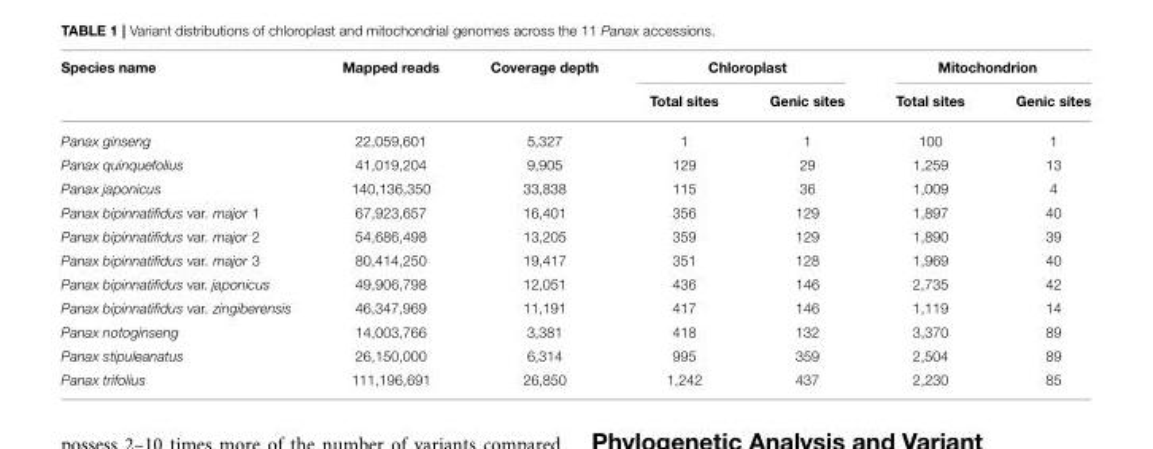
<table><thead><tr><td rowspan="2">Species name</td><td rowspan="2">Mapped reads</td><td rowspan="2">Coverage depth</td><td colspan="2">Chloroplast</td><td colspan="2">Mitochondrion</td></tr><tr><td>Total sites</td><td>Genic sites</td><td>Total sites</td><td>Genic sites</td></tr></thead><tbody><tr><td>Panax ginseng</td><td>22,059,601</td><td>5,327</td><td>1</td><td>1</td><td>100</td><td>1</td></tr><tr><td>Panax quinquefolius</td><td>41,019,204</td><td>9,905</td><td>129</td><td>29</td><td>1,259</td><td>13</td></tr><tr><td>Panax japonicus</td><td>140,136,350</td><td>33,838</td><td>115</td><td>36</td><td>1,009</td><td>4</td></tr><tr><td>Panax bipinnatifidus var. major 1</td><td>67,923,657</td><td>16,401</td><td>356</td><td>129</td><td>1,897</td><td>40</td></tr><tr><td>Panax bipinnatifidus var. major 2</td><td>54,686,498</td><td>13,205</td><td>359</td><td>129</td><td>1,890</td><td>39</td></tr><tr><td>Panax bipinnatifidus var. major 3</td><td>80,414,250</td><td>19,417</td><td>351</td><td>128</td><td>1,969</td><td>40</td></tr><tr><td>Panax bipinnatifidus var. japonicus</td><td>49,906,798</td><td>12,051</td><td>436</td><td>146</td><td>2,735</td><td>42</td></tr><tr><td>Panax bipinnatifidus var. zingiberensis</td><td>46,347,969</td><td>11,191</td><td>417</td><td>146</td><td>1,119</td><td>14</td></tr><tr><td>Panax notoginseng</td><td>14,003,766</td><td>3,381</td><td>418</td><td>132</td><td>3,370</td><td>89</td></tr><tr><td>Panax stipuleanatus</td><td>26,150,000</td><td>6,314</td><td>995</td><td>359</td><td>2,504</td><td>89</td></tr><tr><td>Panax trifolius</td><td>111,196,691</td><td>26,850</td><td>1,242</td><td>437</td><td>2,230</td><td>85</td></tr></tbody></table>